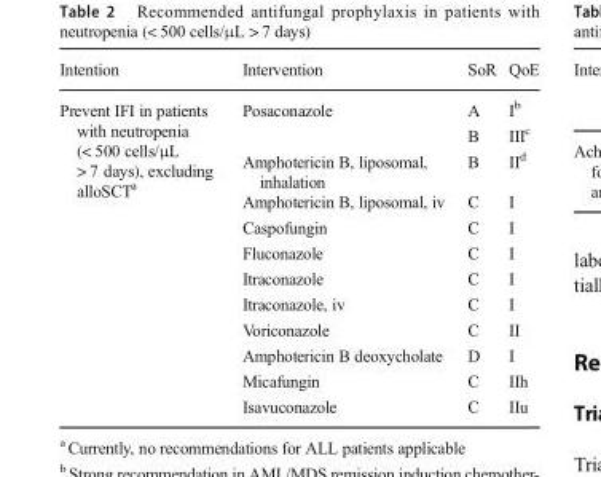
<table><thead><tr><td>Intention</td><td>Intervention</td><td>SoR</td><td>QoE</td></tr></thead><tbody><tr><td rowspan="12">Prevent IFI in patients with neutropenia (&lt; 500 cells/μL &gt; 7 days), excluding alloSCT<sup>a</sup></td><td rowspan="2">Posaconazole</td><td>A</td><td>I<sup>b</sup></td></tr><tr><td>B</td><td>III<sup>c</sup></td></tr><tr><td>Amphotericin B, liposomal, inhalation</td><td>B</td><td>II<sup>d</sup></td></tr><tr><td>Amphotericin B, liposomal, iv</td><td>C</td><td>I</td></tr><tr><td>Caspofungin</td><td>C</td><td>I</td></tr><tr><td>Fluconazole</td><td>C</td><td>I</td></tr><tr><td>Itraconazole</td><td>C</td><td>I</td></tr><tr><td>Itraconazole, iv</td><td>C</td><td>I</td></tr><tr><td>Voriconazole</td><td>C</td><td>II</td></tr><tr><td>Amphotericin B deoxycholate</td><td>D</td><td>I</td></tr><tr><td>Micafungin</td><td>C</td><td>IIh</td></tr><tr><td>Isavuconazole</td><td>C</td><td>IIu</td></tr></tbody></table>